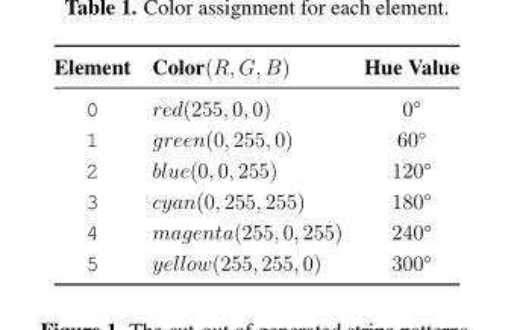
<table><thead><tr><td>Element</td><td>Color(R, G, B)</td><td>Hue Value</td></tr></thead><tbody><tr><td>0</td><td>red(255, 0, 0)</td><td>0◦</td></tr><tr><td>1</td><td>green(0, 255, 0)</td><td>60◦</td></tr><tr><td>2</td><td>blue(0, 0, 255)</td><td>120◦</td></tr><tr><td>3</td><td>cyan(0, 255, 255)</td><td>180◦</td></tr><tr><td>4</td><td>magenta(255, 0, 255)</td><td>240◦</td></tr><tr><td>5</td><td>yellow(255, 255, 0)</td><td>300◦</td></tr></tbody></table>